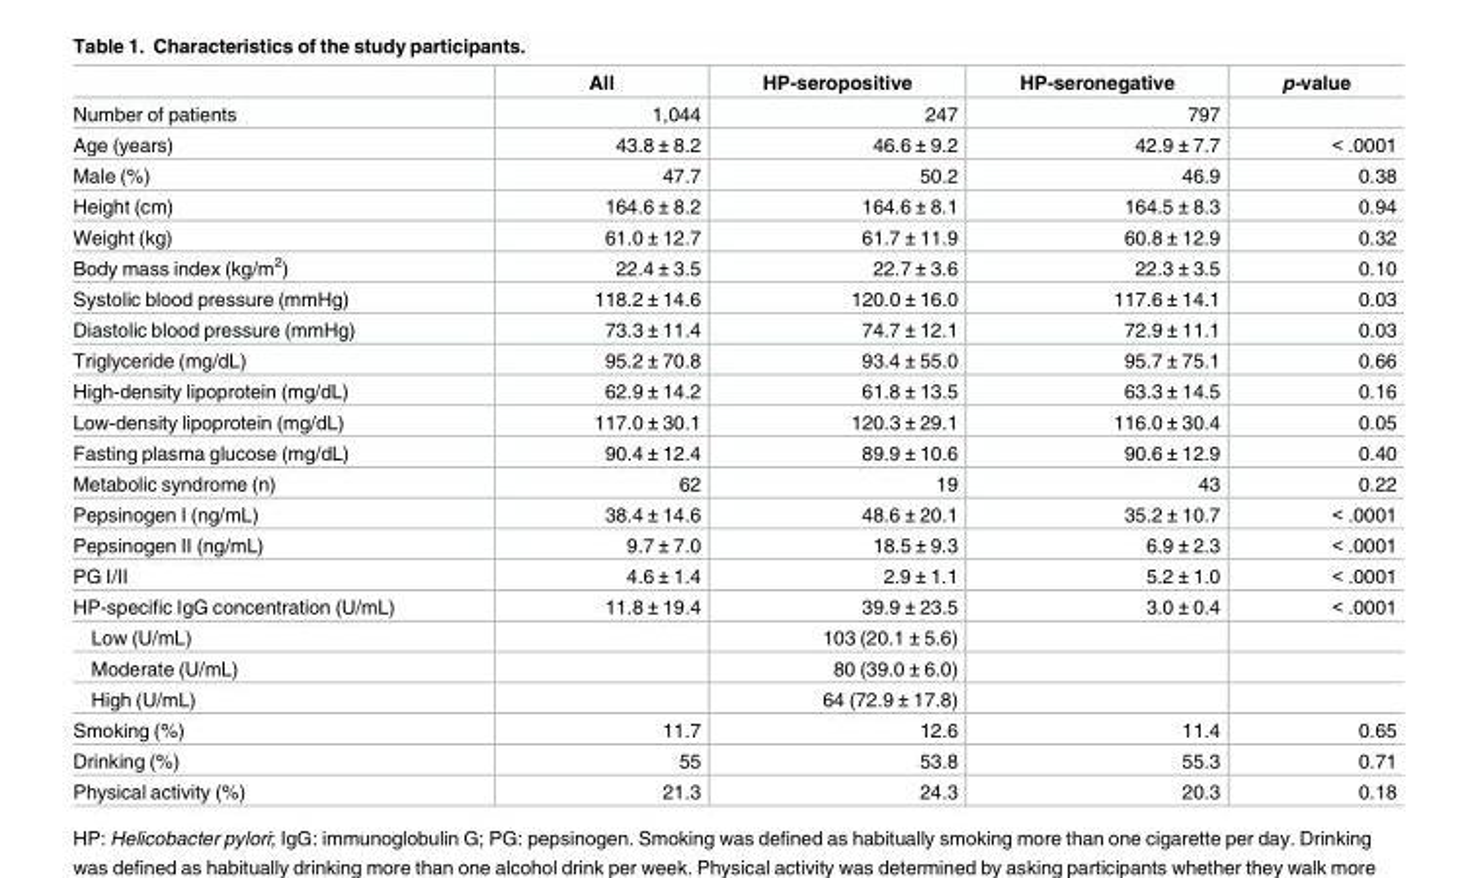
<table><thead><tr><td></td><td>All</td><td>HP-seropositive</td><td>HP-seronegative</td><td>p-value</td></tr></thead><tbody><tr><td>Number of patients</td><td>1,044</td><td>247</td><td>797</td><td></td></tr><tr><td>Age (years)</td><td>43.8 ± 8.2</td><td>46.6 ± 9.2</td><td>42.9 ± 7.7</td><td>&lt; .0001</td></tr><tr><td>Male (%)</td><td>47.7</td><td>50.2</td><td>46.9</td><td>0.38</td></tr><tr><td>Height (cm)</td><td>164.6 ± 8.2</td><td>164.6 ± 8.1</td><td>164.5 ± 8.3</td><td>0.94</td></tr><tr><td>Weight (kg)</td><td>61.0 ± 12.7</td><td>61.7 ± 11.9</td><td>60.8 ± 12.9</td><td>0.32</td></tr><tr><td>Body mass index (kg/m<sup>2</sup>)</td><td>22.4 ± 3.5</td><td>22.7 ± 3.6</td><td>22.3 ± 3.5</td><td>0.10</td></tr><tr><td>Systolic blood pressure (mmHg)</td><td>118.2 ± 14.6</td><td>120.0 ± 16.0</td><td>117.6 ± 14.1</td><td>0.03</td></tr><tr><td>Diastolic blood pressure (mmHg)</td><td>73.3 ± 11.4</td><td>74.7 ± 12.1</td><td>72.9 ± 11.1</td><td>0.03</td></tr><tr><td>Triglyceride (mg/dL)</td><td>95.2 ± 70.8</td><td>93.4 ± 55.0</td><td>95.7 ± 75.1</td><td>0.66</td></tr><tr><td>High-density lipoprotein (mg/dL)</td><td>62.9 ± 14.2</td><td>61.8 ± 13.5</td><td>63.3 ± 14.5</td><td>0.16</td></tr><tr><td>Low-density lipoprotein (mg/dL)</td><td>117.0 ± 30.1</td><td>120.3 ± 29.1</td><td>116.0 ± 30.4</td><td>0.05</td></tr><tr><td>Fasting plasma glucose (mg/dL)</td><td>90.4 ± 12.4</td><td>89.9 ± 10.6</td><td>90.6 ± 12.9</td><td>0.40</td></tr><tr><td>Metabolic syndrome (n)</td><td>62</td><td>19</td><td>43</td><td>0.22</td></tr><tr><td>Pepsinogen I (ng/mL)</td><td>38.4 ± 14.6</td><td>48.6 ± 20.1</td><td>35.2 ± 10.7</td><td>&lt; .0001</td></tr><tr><td>Pepsinogen II (ng/mL)</td><td>9.7 ± 7.0</td><td>18.5 ± 9.3</td><td>6.9 ± 2.3</td><td>&lt; .0001</td></tr><tr><td>PG I/II</td><td>4.6 ± 1.4</td><td>2.9 ± 1.1</td><td>5.2 ± 1.0</td><td>&lt; .0001</td></tr><tr><td>HP-specific IgG concentration (U/mL)</td><td>11.8 ± 19.4</td><td>39.9 ± 23.5</td><td>3.0 ± 0.4</td><td>&lt; .0001</td></tr><tr><td>Low (U/mL)</td><td></td><td>103 (20.1 ± 5.6)</td><td></td><td></td></tr><tr><td>Moderate (U/mL)</td><td></td><td>80 (39.0 ± 6.0)</td><td></td><td></td></tr><tr><td>High (U/mL)</td><td></td><td>64 (72.9 ± 17.8)</td><td></td><td></td></tr><tr><td>Smoking (%)</td><td>11.7</td><td>12.6</td><td>11.4</td><td>0.65</td></tr><tr><td>Drinking (%)</td><td>55</td><td>53.8</td><td>55.3</td><td>0.71</td></tr><tr><td>Physical activity (%)</td><td>21.3</td><td>24.3</td><td>20.3</td><td>0.18</td></tr></tbody></table>